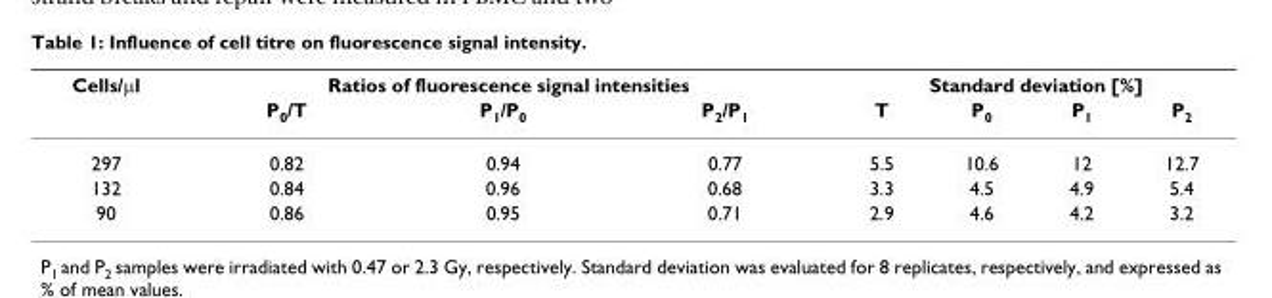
<table><thead><tr><td rowspan="2">Cells/μl</td><td colspan="3">Ratios of fluorescence signal intensities</td><td colspan="4">Standard deviation [%]</td></tr><tr><td>P<sub>0</sub>/T</td><td>P<sub>1</sub>/P<sub>0</sub></td><td>P<sub>2</sub>/P<sub>1</sub></td><td>T</td><td>P<sub>0</sub></td><td>P<sub>1</sub></td><td>P<sub>2</sub></td></tr></thead><tbody><tr><td>297</td><td>0.82</td><td>0.94</td><td>0.77</td><td>5.5</td><td>10.6</td><td>12</td><td>12.7</td></tr><tr><td>132</td><td>0.84</td><td>0.96</td><td>0.68</td><td>3.3</td><td>4.5</td><td>4.9</td><td>5.4</td></tr><tr><td>90</td><td>0.86</td><td>0.95</td><td>0.71</td><td>2.9</td><td>4.6</td><td>4.2</td><td>3.2</td></tr></tbody></table>